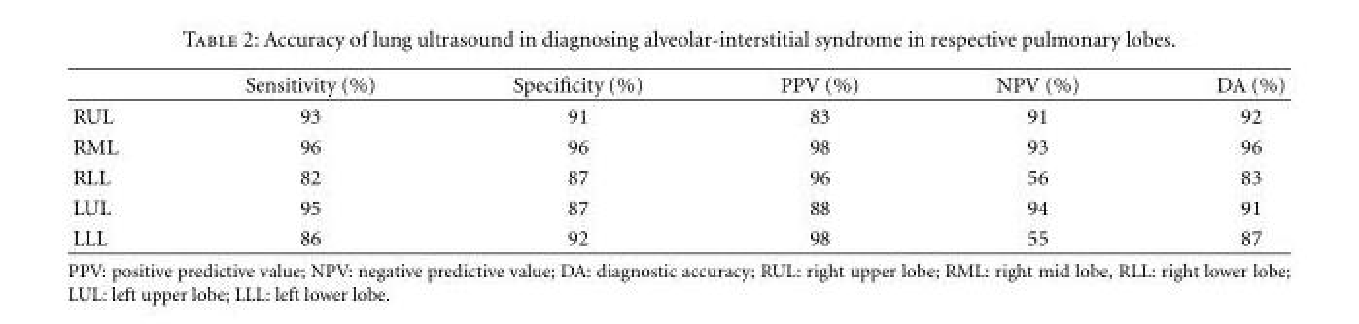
<table><thead><tr><td></td><td>Sensitivity (%)</td><td>Specificity (%)</td><td>PPV (%)</td><td>NPV (%)</td><td>DA (%)</td></tr></thead><tbody><tr><td>RUL</td><td>93</td><td>91</td><td>83</td><td>91</td><td>92</td></tr><tr><td>RML</td><td>96</td><td>96</td><td>98</td><td>93</td><td>96</td></tr><tr><td>RLL</td><td>82</td><td>87</td><td>96</td><td>56</td><td>83</td></tr><tr><td>LUL</td><td>95</td><td>87</td><td>88</td><td>94</td><td>91</td></tr><tr><td>LLL</td><td>86</td><td>92</td><td>98</td><td>55</td><td>87</td></tr></tbody></table>